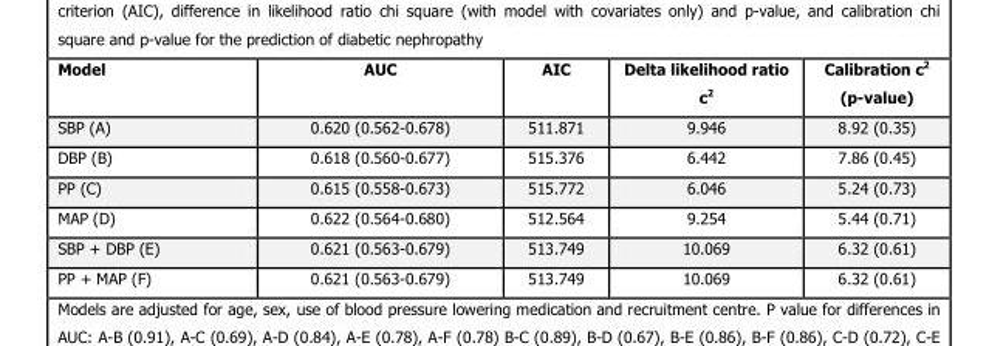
<table><thead><tr><td>Model</td><td>AUC</td><td>AIC</td><td>Delta likelihood ratio c<sup>2</sup></td><td>Calibration c<sup>2</sup> (p-value)</td></tr></thead><tbody><tr><td>SBP (A)</td><td>0.620 (0.562-0.678)</td><td>511.871</td><td>9.946</td><td>8.92 (0.35)</td></tr><tr><td>DBP (B)</td><td>0.618 (0.560-0.677)</td><td>515.376</td><td>6.442</td><td>7.86 (0.45)</td></tr><tr><td>PP (C)</td><td>0.615 (0.558-0.673)</td><td>515.772</td><td>6.046</td><td>5.24 (0.73)</td></tr><tr><td>MAP (D)</td><td>0.622 (0.564-0.680)</td><td>512.564</td><td>9.254</td><td>5.44 (0.71)</td></tr><tr><td>SBP + DBP (E)</td><td>0.621 (0.563-0.679)</td><td>513.749</td><td>10.069</td><td>6.32 (0.61)</td></tr><tr><td>PP + MAP (F)</td><td>0.621 (0.563-0.679)</td><td>513.749</td><td>10.069</td><td>6.32 (0.61)</td></tr></tbody></table>